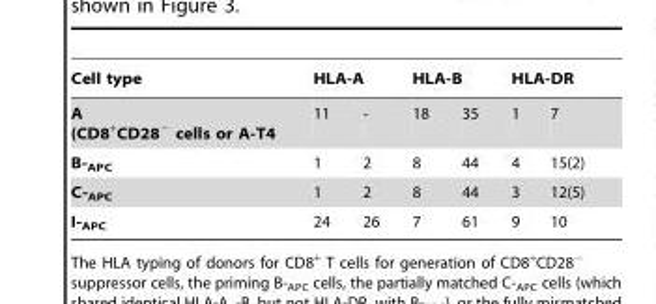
<table><thead><tr><td rowspan="2">Cell type A (CD8<sup>+</sup>CD28<sup>−</sup> cells or A-T4</td><td colspan="2">HLA-A</td><td colspan="2">HLA-B</td><td colspan="2">HLA-DR</td></tr><tr><td>11</td><td>-</td><td>18</td><td>35</td><td>1</td><td>7</td></tr></thead><tbody><tr><td>B-<sub>APC</sub></td><td>1</td><td>2</td><td>8</td><td>44</td><td>4</td><td>15(2)</td></tr><tr><td>C-<sub>APC</sub></td><td>1</td><td>2</td><td>8</td><td>44</td><td>3</td><td>12(5)</td></tr><tr><td>I-<sub>APC</sub></td><td>24</td><td>26</td><td>7</td><td>61</td><td>9</td><td>10</td></tr></tbody></table>